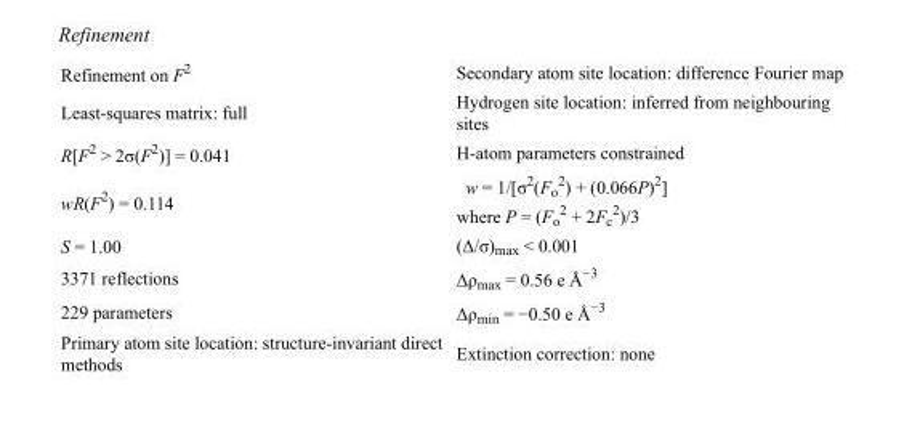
<table><tbody><tr><td>Refinement on F2</td><td>Secondary atom site location: difference Fourier map</td></tr><tr><td>Least-squares matrix: full</td><td>Hydrogen site location: inferred from neighbouring sites</td></tr><tr><td>R[F2 &gt; 2σ(F2)] = 0.041</td><td>H-atom parameters constrained</td></tr><tr><td>wR(F2) = 0.114</td><td>w = 1/[σ2(Fo 2) + (0.066P)2] where P = (Fo 2 + 2Fc 2)/3</td></tr><tr><td>S = 1.00</td><td>(Δ/σ)max &lt; 0.001</td></tr><tr><td>3371 reflections</td><td>Δρmax = 0.56 e Å−3</td></tr><tr><td>229 parameters</td><td>Δρmin = −0.50 e Å−3</td></tr><tr><td>Primary atom site location: structure-invariant direct methods</td><td>Extinction correction: none</td></tr></tbody></table>